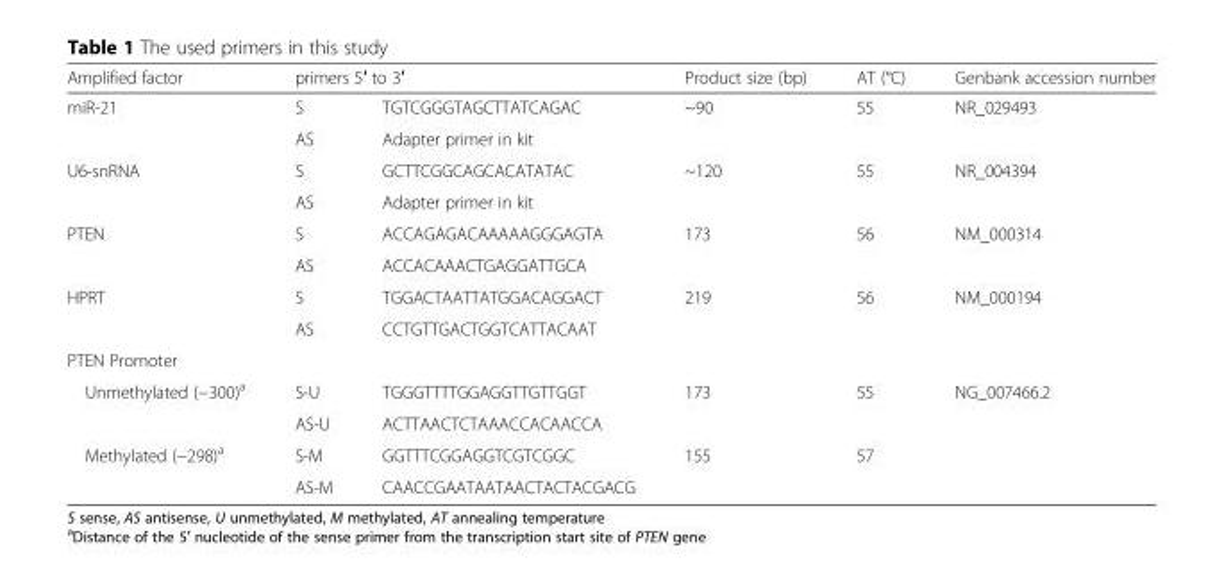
<table><thead><tr><td rowspan="2">Amplified factor miR-21</td><td colspan="2">primers 5′ to 3′</td><td rowspan="2">Product size (bp) ~90</td><td rowspan="2">AT (°C) 55</td><td rowspan="2">Genbank accession number NR_029493</td></tr><tr><td>S</td><td>TGTCGGGTAGCTTATCAGAC</td></tr></thead><tbody><tr><td></td><td>AS</td><td>Adapter primer in kit</td><td></td><td></td><td></td></tr><tr><td rowspan="2">U6-snRNA</td><td>S</td><td>GCTTCGGCAGCACATATAC</td><td>~120</td><td>55</td><td>NR_004394</td></tr><tr><td>AS</td><td>Adapter primer in kit</td><td></td><td></td><td></td></tr><tr><td rowspan="2">PTEN</td><td>S</td><td>ACCAGAGACAAAAAGGGAGTA</td><td>173</td><td>56</td><td>NM_000314</td></tr><tr><td>AS</td><td>ACCACAAACTGAGGATTGCA</td><td></td><td></td><td></td></tr><tr><td rowspan="2">HPRT</td><td>S</td><td>TGGACTAATTATGGACAGGACT</td><td>219</td><td>56</td><td>NM_000194</td></tr><tr><td>AS</td><td>CCTGTTGACTGGTCATTACAAT</td><td></td><td></td><td></td></tr><tr><td colspan="6">PTEN Promoter</td></tr><tr><td rowspan="2">Unmethylated (−300)<sup>a</sup></td><td>S-U</td><td>TGGGTTTTGGAGGTTGTTGGT</td><td>173</td><td>55</td><td>NG_007466.2</td></tr><tr><td>AS-U</td><td>ACTTAACTCTAAACCACAACCA</td><td></td><td></td><td></td></tr><tr><td rowspan="2">Methylated (−298)<sup>a</sup></td><td>S-M</td><td>GGTTTCGGAGGTCGTCGGC</td><td>155</td><td>57</td><td></td></tr><tr><td>AS-M</td><td>CAACCGAATAATAACTACTACGACG</td><td></td><td></td><td></td></tr></tbody></table>